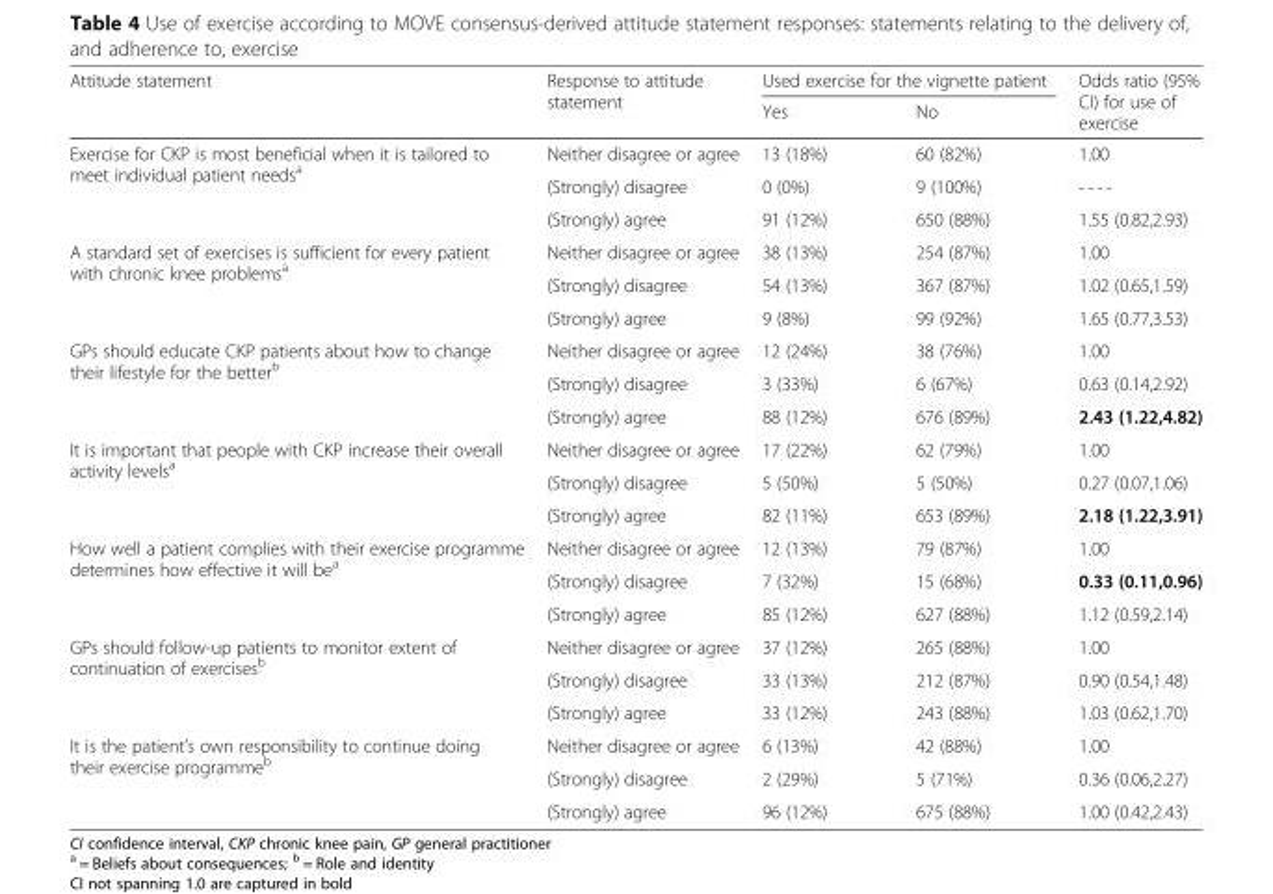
<table><thead><tr><td rowspan="2">Attitude statement</td><td rowspan="2">Response to attitude statement</td><td colspan="2">Used exercise for the vignette patient</td><td rowspan="2">Odds ratio (95% CI) for use of exercise</td></tr><tr><td>Yes</td><td>No</td></tr></thead><tbody><tr><td rowspan="3">Exercise for CKP is most beneficial when it is tailored to meet individual patient needs<sup>a</sup></td><td>Neither disagree or agree</td><td>13 (18%)</td><td>60 (82%)</td><td>1.00</td></tr><tr><td>(Strongly) disagree</td><td>0 (0%)</td><td>9 (100%)</td><td>- - - -</td></tr><tr><td>(Strongly) agree</td><td>91 (12%)</td><td>650 (88%)</td><td>1.55 (0.82,2.93)</td></tr><tr><td rowspan="3">A standard set of exercises is sufficient for every patient with chronic knee problems<sup>a</sup></td><td>Neither disagree or agree</td><td>38 (13%)</td><td>254 (87%)</td><td>1.00</td></tr><tr><td>(Strongly) disagree</td><td>54 (13%)</td><td>367 (87%)</td><td>1.02 (0.65,1.59)</td></tr><tr><td>(Strongly) agree</td><td>9 (8%)</td><td>99 (92%)</td><td>1.65 (0.77,3.53)</td></tr><tr><td rowspan="3">GPs should educate CKP patients about how to change their lifestyle for the better<sup>b</sup></td><td>Neither disagree or agree</td><td>12 (24%)</td><td>38 (76%)</td><td>1.00</td></tr><tr><td>(Strongly) disagree</td><td>3 (33%)</td><td>6 (67%)</td><td>0.63 (0.14,2.92)</td></tr><tr><td>(Strongly) agree</td><td>88 (12%)</td><td>676 (89%)</td><td>2.43 (1.22,4.82)</td></tr><tr><td rowspan="3">It is important that people with CKP increase their overall activity levels<sup>a</sup></td><td>Neither disagree or agree</td><td>17 (22%)</td><td>62 (79%)</td><td>1.00</td></tr><tr><td>(Strongly) disagree</td><td>5 (50%)</td><td>5 (50%)</td><td>0.27 (0.07,1.06)</td></tr><tr><td>(Strongly) agree</td><td>82 (11%)</td><td>653 (89%)</td><td>2.18 (1.22,3.91)</td></tr><tr><td rowspan="3">How well a patient complies with their exercise programme determines how effective it will be<sup>a</sup></td><td>Neither disagree or agree</td><td>12 (13%)</td><td>79 (87%)</td><td>1.00</td></tr><tr><td>(Strongly) disagree</td><td>7 (32%)</td><td>15 (68%)</td><td>0.33 (0.11,0.96)</td></tr><tr><td>(Strongly) agree</td><td>85 (12%)</td><td>627 (88%)</td><td>1.12 (0.59,2.14)</td></tr><tr><td rowspan="3">GPs should follow-up patients to monitor extent of continuation of exercises<sup>b</sup></td><td>Neither disagree or agree</td><td>37 (12%)</td><td>265 (88%)</td><td>1.00</td></tr><tr><td>(Strongly) disagree</td><td>33 (13%)</td><td>212 (87%)</td><td>0.90 (0.54,1.48)</td></tr><tr><td>(Strongly) agree</td><td>33 (12%)</td><td>243 (88%)</td><td>1.03 (0.62,1.70)</td></tr><tr><td rowspan="3">It is the patient’s own responsibility to continue doing their exercise programme<sup>b</sup></td><td>Neither disagree or agree</td><td>6 (13%)</td><td>42 (88%)</td><td>1.00</td></tr><tr><td>(Strongly) disagree</td><td>2 (29%)</td><td>5 (71%)</td><td>0.36 (0.06,2.27)</td></tr><tr><td>(Strongly) agree</td><td>96 (12%)</td><td>675 (88%)</td><td>1.00 (0.42,2.43)</td></tr></tbody></table>